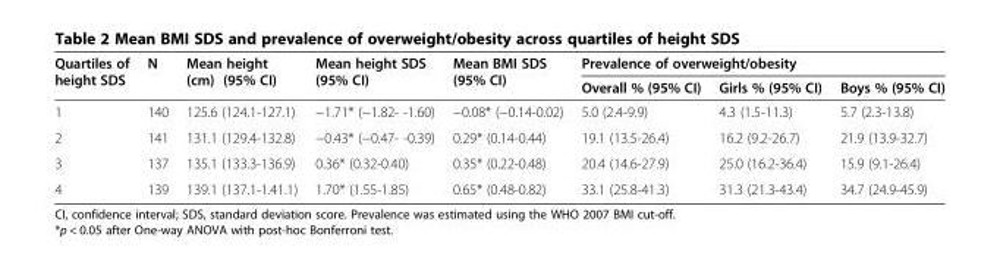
<table><thead><tr><td rowspan="2">Quartiles of height SDS</td><td rowspan="2">N</td><td rowspan="2">Mean height (cm) (95% CI)</td><td rowspan="2">Mean height SDS (95% CI)</td><td rowspan="2">Mean BMI SDS (95% CI)</td><td colspan="3">Prevalence of overweight/obesity</td></tr><tr><td>Overall % (95% CI)</td><td>Girls % (95% CI)</td><td>Boys % (95% CI)</td></tr></thead><tbody><tr><td>1</td><td>140</td><td>125.6 (124.1-127.1)</td><td>−1.71* (−1.82- -1.60)</td><td>−0.08* (−0.14-0.02)</td><td>5.0 (2.4-9.9)</td><td>4.3 (1.5-11.3)</td><td>5.7 (2.3-13.8)</td></tr><tr><td>2</td><td>141</td><td>131.1 (129.4-132.8)</td><td>−0.43* (−0.47- -0.39)</td><td>0.29* (0.14-0.44)</td><td>19.1 (13.5-26.4)</td><td>16.2 (9.2-26.7)</td><td>21.9 (13.9-32.7)</td></tr><tr><td>3</td><td>137</td><td>135.1 (133.3-136.9)</td><td>0.36* (0.32-0.40)</td><td>0.35* (0.22-0.48)</td><td>20.4 (14.6-27.9)</td><td>25.0 (16.2-36.4)</td><td>15.9 (9.1-26.4)</td></tr><tr><td>4</td><td>139</td><td>139.1 (137.1-1.41.1)</td><td>1.70* (1.55-1.85)</td><td>0.65* (0.48-0.82)</td><td>33.1 (25.8-41.3)</td><td>31.3 (21.3-43.4)</td><td>34.7 (24.9-45.9)</td></tr></tbody></table>